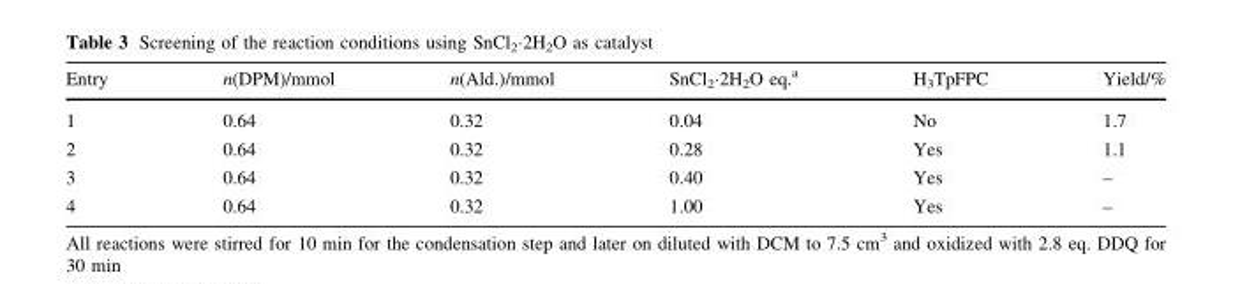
<table><thead><tr><td>Entry</td><td>n(DPM)/mmol</td><td>n(Ald.)/mmol</td><td>SnCl<sub>2</sub>·2H<sub>2</sub>O eq.<sup>a</sup></td><td>H<sub>3</sub>TpFPC</td><td>Yield/%</td></tr></thead><tbody><tr><td>1</td><td>0.64</td><td>0.32</td><td>0.04</td><td>No</td><td>1.7</td></tr><tr><td>2</td><td>0.64</td><td>0.32</td><td>0.28</td><td>Yes</td><td>1.1</td></tr><tr><td>3</td><td>0.64</td><td>0.32</td><td>0.40</td><td>Yes</td><td>–</td></tr><tr><td>4</td><td>0.64</td><td>0.32</td><td>1.00</td><td>Yes</td><td>–</td></tr></tbody></table>